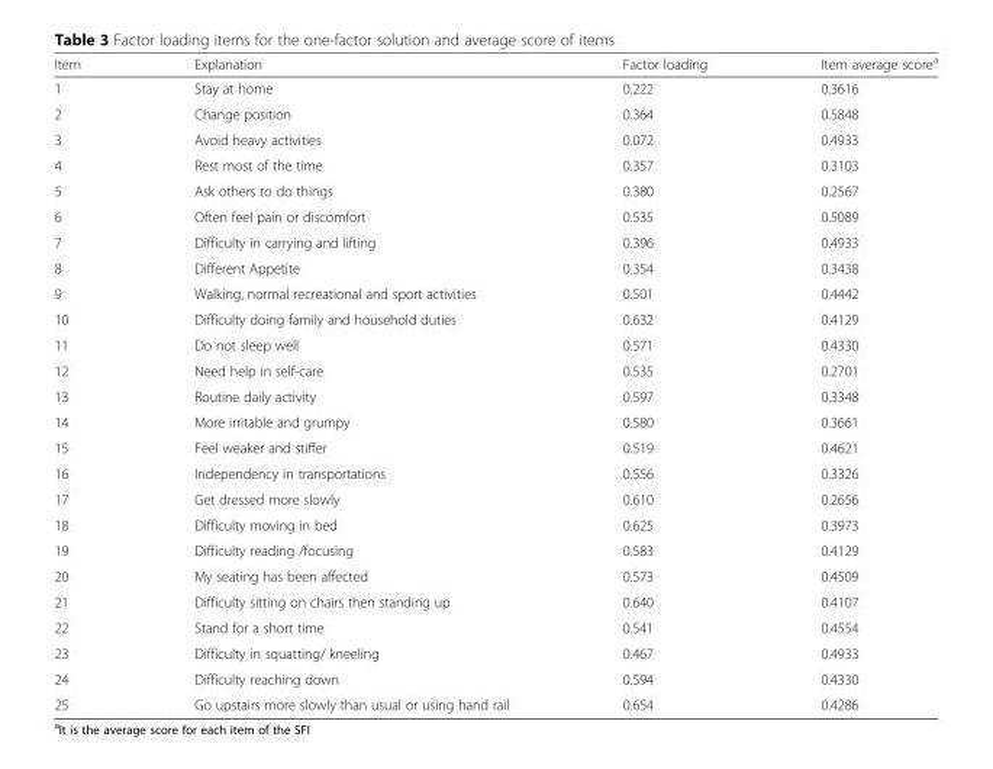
<table><thead><tr><td>Item</td><td>Explanation</td><td>Factor loading</td><td>Item average score<sup>a</sup></td></tr></thead><tbody><tr><td>1</td><td>Stay at home</td><td>0.222</td><td>0.3616</td></tr><tr><td>2</td><td>Change position</td><td>0.364</td><td>0.5848</td></tr><tr><td>3</td><td>Avoid heavy activities</td><td>0.072</td><td>0.4933</td></tr><tr><td>4</td><td>Rest most of the time</td><td>0.357</td><td>0.3103</td></tr><tr><td>5</td><td>Ask others to do things</td><td>0.380</td><td>0.2567</td></tr><tr><td>6</td><td>Often feel pain or discomfort</td><td>0.535</td><td>0.5089</td></tr><tr><td>7</td><td>Difficulty in carrying and lifting</td><td>0.396</td><td>0.4933</td></tr><tr><td>8</td><td>Different Appetite</td><td>0.354</td><td>0.3438</td></tr><tr><td>9</td><td>Walking, normal recreational and sport activities</td><td>0.501</td><td>0.4442</td></tr><tr><td>10</td><td>Difficulty doing family and household duties</td><td>0.632</td><td>0.4129</td></tr><tr><td>11</td><td>Do not sleep well</td><td>0.571</td><td>0.4330</td></tr><tr><td>12</td><td>Need help in self-care</td><td>0.535</td><td>0.2701</td></tr><tr><td>13</td><td>Routine daily activity</td><td>0.597</td><td>0.3348</td></tr><tr><td>14</td><td>More irritable and grumpy</td><td>0.580</td><td>0.3661</td></tr><tr><td>15</td><td>Feel weaker and stiffer</td><td>0.519</td><td>0.4621</td></tr><tr><td>16</td><td>Independency in transportations</td><td>0.556</td><td>0.3326</td></tr><tr><td>17</td><td>Get dressed more slowly</td><td>0.610</td><td>0.2656</td></tr><tr><td>18</td><td>Difficulty moving in bed</td><td>0.625</td><td>0.3973</td></tr><tr><td>19</td><td>Difficulty reading /focusing</td><td>0.583</td><td>0.4129</td></tr><tr><td>20</td><td>My seating has been affected</td><td>0.573</td><td>0.4509</td></tr><tr><td>21</td><td>Difficulty sitting on chairs then standing up</td><td>0.640</td><td>0.4107</td></tr><tr><td>22</td><td>Stand for a short time</td><td>0.541</td><td>0.4554</td></tr><tr><td>23</td><td>Difficulty in squatting/ kneeling</td><td>0.467</td><td>0.4933</td></tr><tr><td>24</td><td>Difficulty reaching down</td><td>0.594</td><td>0.4330</td></tr><tr><td>25</td><td>Go upstairs more slowly than usual or using hand rail</td><td>0.654</td><td>0.4286</td></tr></tbody></table>